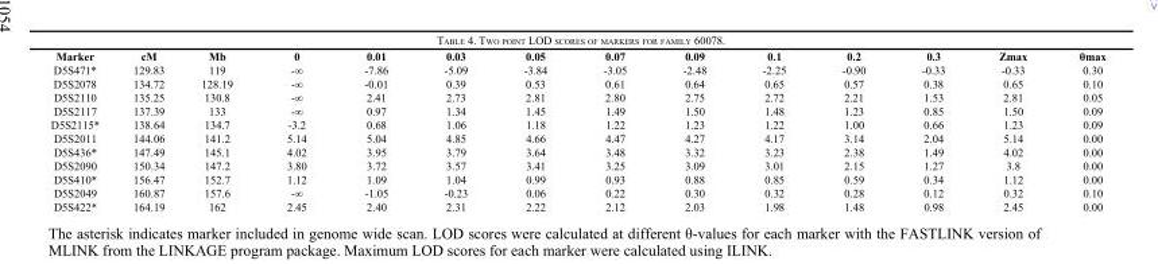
<table><thead><tr><td>Marker</td><td>cM</td><td>Mb</td><td>0</td><td>0.01</td><td>0.03</td><td>0.05</td><td>0.07</td><td>0.09</td><td>0.1</td><td>0.2</td><td>0.3</td><td>Zmax</td><td>θmax</td></tr></thead><tbody><tr><td>D5S471*</td><td>129.83</td><td>119</td><td>-∞</td><td>-7.86</td><td>-5.09</td><td>-3.84</td><td>-3.05</td><td>-2.48</td><td>-2.25</td><td>-0.90</td><td>-0.33</td><td>-0.33</td><td>0.30</td></tr><tr><td>D5S2078</td><td>134.72</td><td>128.19</td><td>-∞</td><td>-0.01</td><td>0.39</td><td>0.53</td><td>0.61</td><td>0.64</td><td>0.65</td><td>0.57</td><td>0.38</td><td>0.65</td><td>0.10</td></tr><tr><td>D5S2110</td><td>135.25</td><td>130.8</td><td>-∞</td><td>2.41</td><td>2.73</td><td>2.81</td><td>2.80</td><td>2.75</td><td>2.72</td><td>2.21</td><td>1.53</td><td>2.81</td><td>0.05</td></tr><tr><td>D5S2117</td><td>137.39</td><td>133</td><td>-∞</td><td>0.97</td><td>1.34</td><td>1.45</td><td>1.49</td><td>1.50</td><td>1.48</td><td>1.23</td><td>0.85</td><td>1.50</td><td>0.09</td></tr><tr><td>D5S2115*</td><td>138.64</td><td>134.7</td><td>-3.2</td><td>0.68</td><td>1.06</td><td>1.18</td><td>1.22</td><td>1.23</td><td>1.22</td><td>1.00</td><td>0.66</td><td>1.23</td><td>0.09</td></tr><tr><td>D5S2011</td><td>144.06</td><td>141.2</td><td>5.14</td><td>5.04</td><td>4.85</td><td>4.66</td><td>4.47</td><td>4.27</td><td>4.17</td><td>3.14</td><td>2.04</td><td>5.14</td><td>0.00</td></tr><tr><td>D5S436*</td><td>147.49</td><td>145.1</td><td>4.02</td><td>3.95</td><td>3.79</td><td>3.64</td><td>3.48</td><td>3.32</td><td>3.23</td><td>2.38</td><td>1.49</td><td>4.02</td><td>0.00</td></tr><tr><td>D5S2090</td><td>150.34</td><td>147.2</td><td>3.80</td><td>3.72</td><td>3.57</td><td>3.41</td><td>3.25</td><td>3.09</td><td>3.01</td><td>2.15</td><td>1.27</td><td>3.8</td><td>0.00</td></tr><tr><td>D5S410*</td><td>156.47</td><td>152.7</td><td>1.12</td><td>1.09</td><td>1.04</td><td>0.99</td><td>0.93</td><td>0.88</td><td>0.85</td><td>0.59</td><td>0.34</td><td>1.12</td><td>0.00</td></tr><tr><td>D5S2049</td><td>160.87</td><td>157.6</td><td>-∞</td><td>-1.05</td><td>-0.23</td><td>0.06</td><td>0.22</td><td>0.30</td><td>0.32</td><td>0.28</td><td>0.12</td><td>0.32</td><td>0.10</td></tr><tr><td>D5S422*</td><td>164.19</td><td>162</td><td>2.45</td><td>2.40</td><td>2.31</td><td>2.22</td><td>2.12</td><td>2.03</td><td>1.98</td><td>1.48</td><td>0.98</td><td>2.45</td><td>0.00</td></tr></tbody></table>